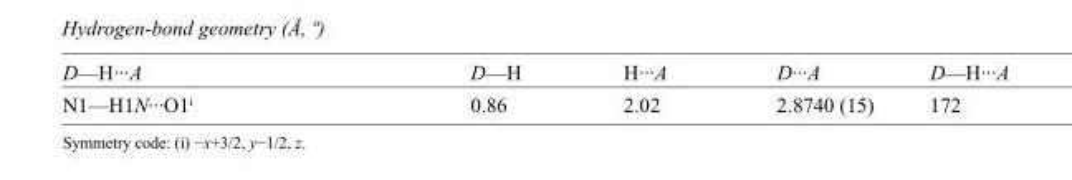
<table><tbody><tr><td>D—H···A</td><td>D—H</td><td>H···A</td><td>D···A</td><td>D—H···A</td></tr><tr><td>N1—H1N···O1<sup>i</sup></td><td>0.86</td><td>2.02</td><td>2.8740 (15)</td><td>172</td></tr></tbody></table>